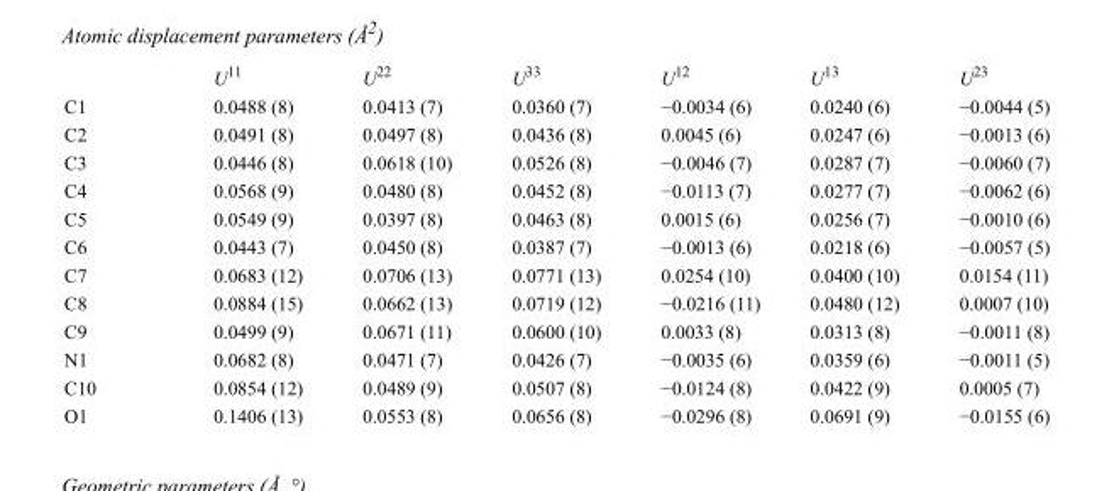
<table><thead><tr><td></td><td>U<sup>11</sup></td><td>U<sup>22</sup></td><td>U<sup>33</sup></td><td>U<sup>12</sup></td><td>U<sup>13</sup></td><td>U<sup>23</sup></td></tr></thead><tbody><tr><td>C1</td><td>0.0488 (8)</td><td>0.0413 (7)</td><td>0.0360 (7)</td><td>−0.0034 (6)</td><td>0.0240 (6)</td><td>−0.0044 (5)</td></tr><tr><td>C2</td><td>0.0491 (8)</td><td>0.0497 (8)</td><td>0.0436 (8)</td><td>0.0045 (6)</td><td>0.0247 (6)</td><td>−0.0013 (6)</td></tr><tr><td>C3</td><td>0.0446 (8)</td><td>0.0618 (10)</td><td>0.0526 (8)</td><td>−0.0046 (7)</td><td>0.0287 (7)</td><td>−0.0060 (7)</td></tr><tr><td>C4</td><td>0.0568 (9)</td><td>0.0480 (8)</td><td>0.0452 (8)</td><td>−0.0113 (7)</td><td>0.0277 (7)</td><td>−0.0062 (6)</td></tr><tr><td>C5</td><td>0.0549 (9)</td><td>0.0397 (8)</td><td>0.0463 (8)</td><td>0.0015 (6)</td><td>0.0256 (7)</td><td>−0.0010 (6)</td></tr><tr><td>C6</td><td>0.0443 (7)</td><td>0.0450 (8)</td><td>0.0387 (7)</td><td>−0.0013 (6)</td><td>0.0218 (6)</td><td>−0.0057 (5)</td></tr><tr><td>C7</td><td>0.0683 (12)</td><td>0.0706 (13)</td><td>0.0771 (13)</td><td>0.0254 (10)</td><td>0.0400 (10)</td><td>0.0154 (11)</td></tr><tr><td>C8</td><td>0.0884 (15)</td><td>0.0662 (13)</td><td>0.0719 (12)</td><td>−0.0216 (11)</td><td>0.0480 (12)</td><td>0.0007 (10)</td></tr><tr><td>C9</td><td>0.0499 (9)</td><td>0.0671 (11)</td><td>0.0600 (10)</td><td>0.0033 (8)</td><td>0.0313 (8)</td><td>−0.0011 (8)</td></tr><tr><td>N1</td><td>0.0682 (8)</td><td>0.0471 (7)</td><td>0.0426 (7)</td><td>−0.0035 (6)</td><td>0.0359 (6)</td><td>−0.0011 (5)</td></tr><tr><td>C10</td><td>0.0854 (12)</td><td>0.0489 (9)</td><td>0.0507 (8)</td><td>−0.0124 (8)</td><td>0.0422 (9)</td><td>0.0005 (7)</td></tr><tr><td>O1</td><td>0.1406 (13)</td><td>0.0553 (8)</td><td>0.0656 (8)</td><td>−0.0296 (8)</td><td>0.0691 (9)</td><td>−0.0155 (6)</td></tr></tbody></table>